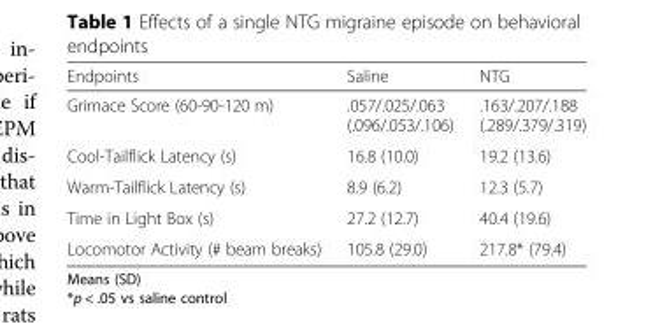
<table><thead><tr><td>Endpoints</td><td>Saline</td><td>NTG</td></tr></thead><tbody><tr><td>Grimace Score (60-90-120 m)</td><td>.057/.025/.063 (.096/.053/.106)</td><td>.163/.207/.188 (.289/.379/.319)</td></tr><tr><td>Cool-Tailflick Latency (s)</td><td>16.8 (10.0)</td><td>19.2 (13.6)</td></tr><tr><td>Warm-Tailflick Latency (s)</td><td>8.9 (6.2)</td><td>12.3 (5.7)</td></tr><tr><td>Time in Light Box (s)</td><td>27.2 (12.7)</td><td>40.4 (19.6)</td></tr><tr><td>Locomotor Activity (# beam breaks)</td><td>105.8 (29.0)</td><td>217.8* (79.4)</td></tr></tbody></table>